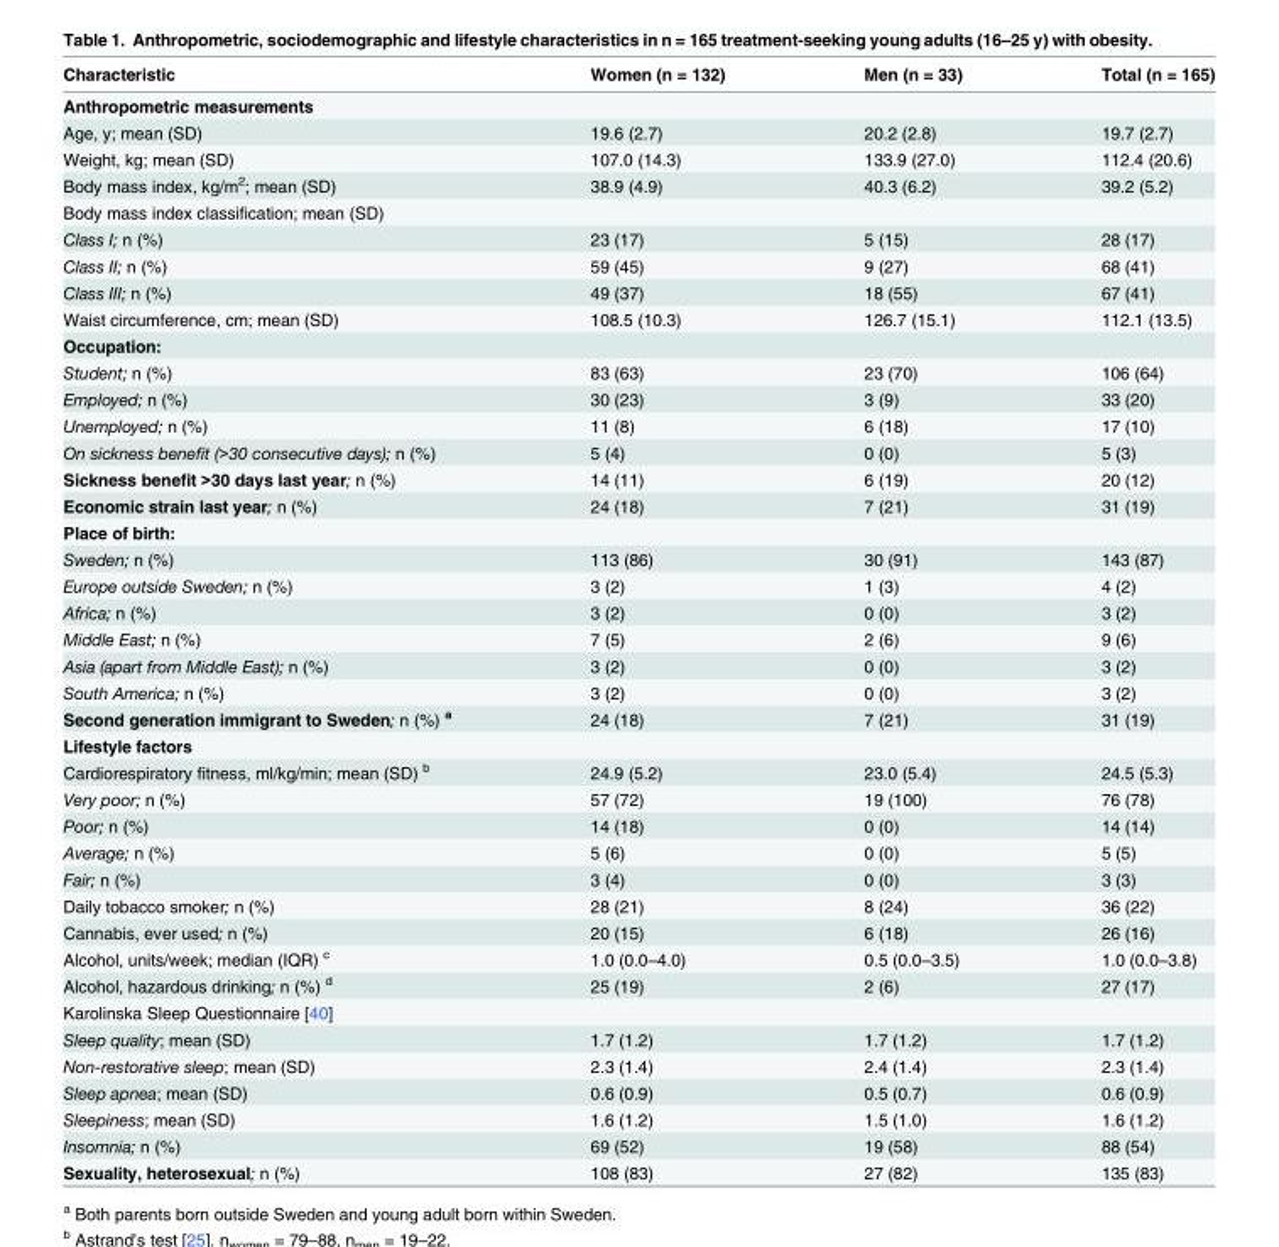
<table><thead><tr><td>Characteristic</td><td>Women (n = 132)</td><td>Men (n = 33)</td><td>Total (n = 165)</td></tr></thead><tbody><tr><td colspan="4">Anthropometric measurements</td></tr><tr><td>Age, y; mean (SD)</td><td>19.6 (2.7)</td><td>20.2 (2.8)</td><td>19.7 (2.7)</td></tr><tr><td>Weight, kg; mean (SD)</td><td>107.0 (14.3)</td><td>133.9 (27.0)</td><td>112.4 (20.6)</td></tr><tr><td>Body mass index, kg/m<sup>2</sup>; mean (SD)</td><td>38.9 (4.9)</td><td>40.3 (6.2)</td><td>39.2 (5.2)</td></tr><tr><td colspan="4">Body mass index classification; mean (SD)</td></tr><tr><td>Class I; n (%)</td><td>23 (17)</td><td>5 (15)</td><td>28 (17)</td></tr><tr><td>Class II; n (%)</td><td>59 (45)</td><td>9 (27)</td><td>68 (41)</td></tr><tr><td>Class III; n (%)</td><td>49 (37)</td><td>18 (55)</td><td>67 (41)</td></tr><tr><td>Waist circumference, cm; mean (SD)</td><td>108.5 (10.3)</td><td>126.7 (15.1)</td><td>112.1 (13.5)</td></tr><tr><td colspan="4">Occupation:</td></tr><tr><td>Student; n (%)</td><td>83 (63)</td><td>23 (70)</td><td>106 (64)</td></tr><tr><td>Employed; n (%)</td><td>30 (23)</td><td>3 (9)</td><td>33 (20)</td></tr><tr><td>Unemployed; n (%)</td><td>11 (8)</td><td>6 (18)</td><td>17 (10)</td></tr><tr><td>On sickness benefit (&gt;30 consecutive days); n (%)</td><td>5 (4)</td><td>0 (0)</td><td>5 (3)</td></tr><tr><td>Sickness benefit &gt;30 days last year; n (%)</td><td>14 (11)</td><td>6 (19)</td><td>20 (12)</td></tr><tr><td>Economic strain last year; n (%)</td><td>24 (18)</td><td>7 (21)</td><td>31 (19)</td></tr><tr><td colspan="4">Place of birth:</td></tr><tr><td>Sweden; n (%)</td><td>113 (86)</td><td>30 (91)</td><td>143 (87)</td></tr><tr><td>Europe outside Sweden; n (%)</td><td>3 (2)</td><td>1 (3)</td><td>4 (2)</td></tr><tr><td>Africa; n (%)</td><td>3 (2)</td><td>0 (0)</td><td>3 (2)</td></tr><tr><td>Middle East; n (%)</td><td>7 (5)</td><td>2 (6)</td><td>9 (6)</td></tr><tr><td>Asia (apart from Middle East); n (%)</td><td>3 (2)</td><td>0 (0)</td><td>3 (2)</td></tr><tr><td>South America; n (%)</td><td>3 (2)</td><td>0 (0)</td><td>3 (2)</td></tr><tr><td>Second generation immigrant to Sweden; n (%) <sup>a</sup></td><td>24 (18)</td><td>7 (21)</td><td>31 (19)</td></tr><tr><td colspan="4">Lifestyle factors</td></tr><tr><td>Cardiorespiratory fitness, ml/kg/min; mean (SD) <sup>b</sup></td><td>24.9 (5.2)</td><td>23.0 (5.4)</td><td>24.5 (5.3)</td></tr><tr><td>Very poor; n (%)</td><td>57 (72)</td><td>19 (100)</td><td>76 (78)</td></tr><tr><td>Poor; n (%)</td><td>14 (18)</td><td>0 (0)</td><td>14 (14)</td></tr><tr><td>Average; n (%)</td><td>5 (6)</td><td>0 (0)</td><td>5 (5)</td></tr><tr><td>Fair; n (%)</td><td>3 (4)</td><td>0 (0)</td><td>3 (3)</td></tr><tr><td>Daily tobacco smoker; n (%)</td><td>28 (21)</td><td>8 (24)</td><td>36 (22)</td></tr><tr><td>Cannabis, ever used; n (%)</td><td>20 (15)</td><td>6 (18)</td><td>26 (16)</td></tr><tr><td>Alcohol, units/week; median (IQR) <sup>c</sup></td><td>1.0 (0.0–4.0)</td><td>0.5 (0.0–3.5)</td><td>1.0 (0.0–3.8)</td></tr><tr><td>Alcohol, hazardous drinking; n (%) <sup>d</sup></td><td>25 (19)</td><td>2 (6)</td><td>27 (17)</td></tr><tr><td colspan="4">Karolinska Sleep Questionnaire [40]</td></tr><tr><td>Sleep quality; mean (SD)</td><td>1.7 (1.2)</td><td>1.7 (1.2)</td><td>1.7 (1.2)</td></tr><tr><td>Non-restorative sleep; mean (SD)</td><td>2.3 (1.4)</td><td>2.4 (1.4)</td><td>2.3 (1.4)</td></tr><tr><td>Sleep apnea; mean (SD)</td><td>0.6 (0.9)</td><td>0.5 (0.7)</td><td>0.6 (0.9)</td></tr><tr><td>Sleepiness; mean (SD)</td><td>1.6 (1.2)</td><td>1.5 (1.0)</td><td>1.6 (1.2)</td></tr><tr><td>Insomnia; n (%)</td><td>69 (52)</td><td>19 (58)</td><td>88 (54)</td></tr><tr><td>Sexuality, heterosexual; n (%)</td><td>108 (83)</td><td>27 (82)</td><td>135 (83)</td></tr></tbody></table>